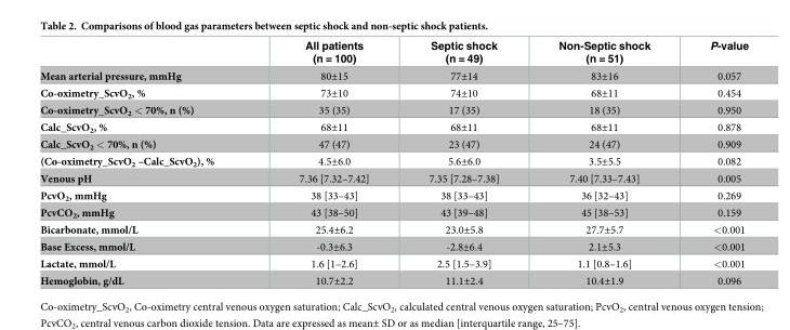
<table><thead><tr><td></td><td>All patients (n = 100)</td><td>Septic shock (n = 49)</td><td>Non-Septic shock (n = 51)</td><td>P-value</td></tr></thead><tbody><tr><td>Mean arterial pressure, mmHg</td><td>80±15</td><td>77±14</td><td>83±16</td><td>0.057</td></tr><tr><td>Co-oximetry_ScvO<sub>2</sub>, %</td><td>73±10</td><td>74±10</td><td>68±11</td><td>0.454</td></tr><tr><td>Co-oximetry_ScvO<sub>2</sub> &lt; 70%, n (%)</td><td>35 (35)</td><td>17 (35)</td><td>18 (35)</td><td>0.950</td></tr><tr><td>Calc_ScvO<sub>2</sub>, %</td><td>68±11</td><td>68±11</td><td>68±11</td><td>0.878</td></tr><tr><td>Calc_ScvO<sub>2</sub> &lt; 70%, n (%)</td><td>47 (47)</td><td>23 (47)</td><td>24 (47)</td><td>0.909</td></tr><tr><td>(Co-oximetry_ScvO<sub>2</sub> –Calc_ScvO<sub>2</sub>), %</td><td>4.5±6.0</td><td>5.6±6.0</td><td>3.5±5.5</td><td>0.082</td></tr><tr><td>Venous pH</td><td>7.36 [7.32–7.42]</td><td>7.35 [7.28–7.38]</td><td>7.40 [7.33–7.43]</td><td>0.005</td></tr><tr><td>PcvO<sub>2</sub>, mmHg</td><td>38 [33–43]</td><td>38 [33–43]</td><td>36 [32–43]</td><td>0.269</td></tr><tr><td>PcvCO<sub>2</sub>, mmHg</td><td>43 [38–50]</td><td>43 [39–48]</td><td>45 [38–53]</td><td>0.159</td></tr><tr><td>Bicarbonate, mmol/L</td><td>25.4±6.2</td><td>23.0±5.8</td><td>27.7±5.7</td><td>&lt;0.001</td></tr><tr><td>Base Excess, mmol/L</td><td>-0.3±6.3</td><td>-2.8±6.4</td><td>2.1±5.3</td><td>&lt;0.001</td></tr><tr><td>Lactate, mmol/L</td><td>1.6 [1–2.6]</td><td>2.5 [1.5–3.9]</td><td>1.1 [0.8–1.6]</td><td>&lt;0.001</td></tr><tr><td>Hemoglobin, g/dL</td><td>10.7±2.2</td><td>11.1±2.4</td><td>10.4±1.9</td><td>0.096</td></tr></tbody></table>